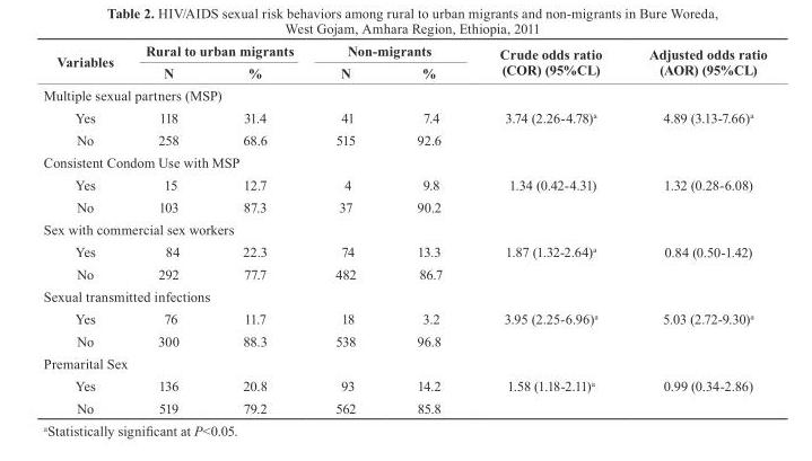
<table><thead><tr><td rowspan="2">Variables</td><td colspan="2">rural to urban migrants</td><td colspan="2">Non-migrants</td><td rowspan="2">crude odds ratio (cOr) (95%cL)</td><td rowspan="2">Adjusted odds ratio (AOr) (95%cL)</td></tr><tr><td>N</td><td>%</td><td>N</td><td>%</td></tr></thead><tbody><tr><td colspan="7">Multiple sexual partners (MSP)</td></tr><tr><td>Yes</td><td>118</td><td>31.4</td><td>41</td><td>7.4</td><td>3.74 (2.26-4.78)<sup>a</sup></td><td>4.89 (3.13-7.66)<sup>a</sup></td></tr><tr><td>No</td><td>258</td><td>68.6</td><td>515</td><td>92.6</td><td></td><td></td></tr><tr><td colspan="7">Consistent Condom Use with MSP</td></tr><tr><td>Yes</td><td>15</td><td>12.7</td><td>4</td><td>9.8</td><td>1.34 (0.42-4.31)</td><td>1.32 (0.28-6.08)</td></tr><tr><td>No</td><td>103</td><td>87.3</td><td>37</td><td>90.2</td><td></td><td></td></tr><tr><td colspan="7">Sex with commercial sex workers</td></tr><tr><td>Yes</td><td>84</td><td>22.3</td><td>74</td><td>13.3</td><td>1.87 (1.32-2.64)<sup>a</sup></td><td>0.84 (0.50-1.42)</td></tr><tr><td>No</td><td>292</td><td>77.7</td><td>482</td><td>86.7</td><td></td><td></td></tr><tr><td colspan="7">Sexual transmitted infections</td></tr><tr><td>Yes</td><td>76</td><td>11.7</td><td>18</td><td>3.2</td><td>3.95 (2.25-6.96)<sup>a</sup></td><td>5.03 (2.72-9.30)<sup>a</sup></td></tr><tr><td>No</td><td>300</td><td>88.3</td><td>538</td><td>96.8</td><td></td><td></td></tr><tr><td colspan="7">Premarital Sex</td></tr><tr><td>Yes</td><td>136</td><td>20.8</td><td>93</td><td>14.2</td><td>1.58 (1.18-2.11)<sup>a</sup></td><td>0.99 (0.34-2.86)</td></tr><tr><td>No</td><td>519</td><td>79.2</td><td>562</td><td>85.8</td><td></td><td></td></tr></tbody></table>